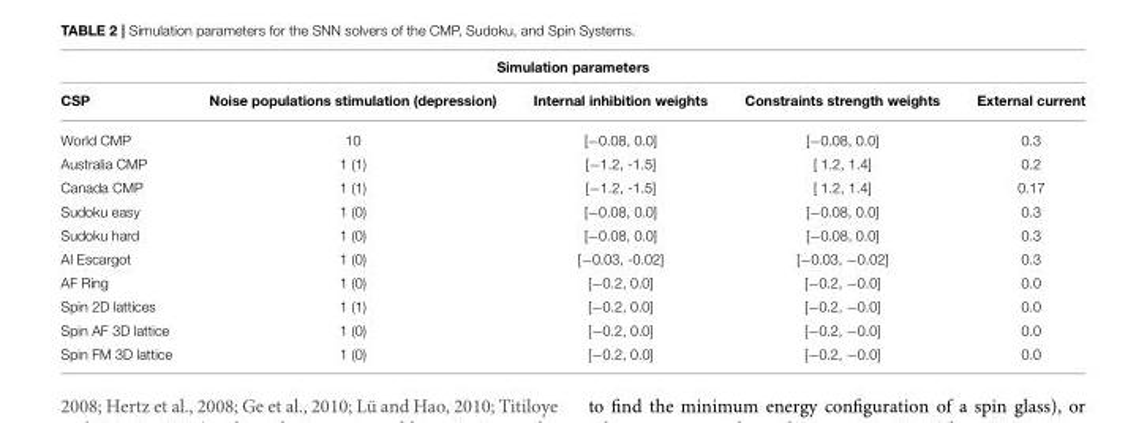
<table><thead><tr><td colspan="5">Simulation parameters</td></tr><tr><td>CSP</td><td>Noise populations stimulation (depression)</td><td>Internal inhibition weights</td><td>Constraints strength weights</td><td>External current</td></tr></thead><tbody><tr><td>World CMP</td><td>10</td><td>[−0.08, 0.0]</td><td>[−0.08, 0.0]</td><td>0.3</td></tr><tr><td>Australia CMP</td><td>1 (1)</td><td>[−1.2, -1.5]</td><td>[ 1.2, 1.4]</td><td>0.2</td></tr><tr><td>Canada CMP</td><td>1 (1)</td><td>[−1.2, -1.5]</td><td>[ 1.2, 1.4]</td><td>0.17</td></tr><tr><td>Sudoku easy</td><td>1 (0)</td><td>[−0.08, 0.0]</td><td>[−0.08, 0.0]</td><td>0.3</td></tr><tr><td>Sudoku hard</td><td>1 (0)</td><td>[−0.08, 0.0]</td><td>[−0.08, 0.0]</td><td>0.3</td></tr><tr><td>AI Escargot</td><td>1 (0)</td><td>[−0.03, -0.02]</td><td>[−0.03, −0.02]</td><td>0.3</td></tr><tr><td>AF Ring</td><td>1 (0)</td><td>[−0.2, 0.0]</td><td>[−0.2, −0.0]</td><td>0.0</td></tr><tr><td>Spin 2D lattices</td><td>1 (1)</td><td>[−0.2, 0.0]</td><td>[−0.2, −0.0]</td><td>0.0</td></tr><tr><td>Spin AF 3D lattice</td><td>1 (0)</td><td>[−0.2, 0.0]</td><td>[−0.2, −0.0]</td><td>0.0</td></tr><tr><td>Spin FM 3D lattice</td><td>1 (0)</td><td>[−0.2, 0.0]</td><td>[−0.2, −0.0]</td><td>0.0</td></tr></tbody></table>